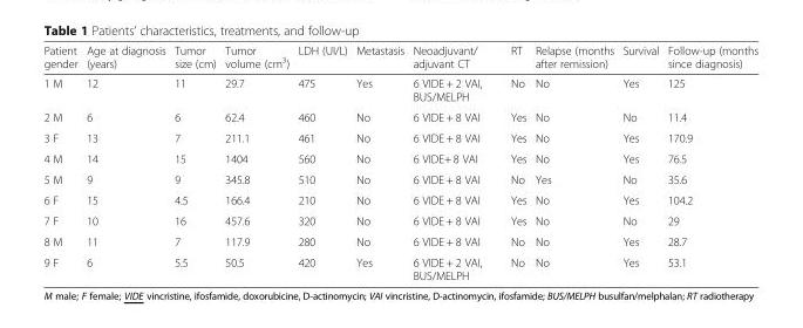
<table><thead><tr><td>Patient gender</td><td>Age at diagnosis (years)</td><td>Tumor size (cm)</td><td>Tumor volume (cm<sup>3</sup>)</td><td>LDH (UI/L)</td><td>Metastasis</td><td>Neoadjuvant/ adjuvant CT</td><td>RT</td><td>Relapse (months after remission)</td><td>Survival</td><td>Follow-up (months since diagnosis)</td></tr></thead><tbody><tr><td>1 M</td><td>12</td><td>11</td><td>29.7</td><td>475</td><td>Yes</td><td>6 VIDE + 2 VAI, BUS/MELPH</td><td>No</td><td>No</td><td>Yes</td><td>125</td></tr><tr><td>2 M</td><td>6</td><td>6</td><td>62.4</td><td>460</td><td>No</td><td>6 VIDE + 8 VAI</td><td>Yes</td><td>No</td><td>No</td><td>11.4</td></tr><tr><td>3 F</td><td>13</td><td>7</td><td>211.1</td><td>461</td><td>No</td><td>6 VIDE + 8 VAI</td><td>Yes</td><td>No</td><td>Yes</td><td>170.9</td></tr><tr><td>4 M</td><td>14</td><td>15</td><td>1404</td><td>560</td><td>No</td><td>6 VIDE+ 8 VAI</td><td>Yes</td><td>No</td><td>Yes</td><td>76.5</td></tr><tr><td>5 M</td><td>9</td><td>9</td><td>345.8</td><td>510</td><td>No</td><td>6 VIDE + 8 VAI</td><td>No</td><td>Yes</td><td>No</td><td>35.6</td></tr><tr><td>6 F</td><td>15</td><td>4.5</td><td>166.4</td><td>210</td><td>No</td><td>6 VIDE + 8 VAI</td><td>Yes</td><td>No</td><td>Yes</td><td>104.2</td></tr><tr><td>7 F</td><td>10</td><td>16</td><td>457.6</td><td>320</td><td>No</td><td>6 VIDE + 8 VAI</td><td>Yes</td><td>No</td><td>No</td><td>29</td></tr><tr><td>8 M</td><td>11</td><td>7</td><td>117.9</td><td>280</td><td>No</td><td>6 VIDE + 8 VAI</td><td>No</td><td>No</td><td>Yes</td><td>28.7</td></tr><tr><td>9 F</td><td>6</td><td>5.5</td><td>50.5</td><td>420</td><td>Yes</td><td>6 VIDE + 2 VAI, BUS/MELPH</td><td>No</td><td>No</td><td>Yes</td><td>53.1</td></tr></tbody></table>